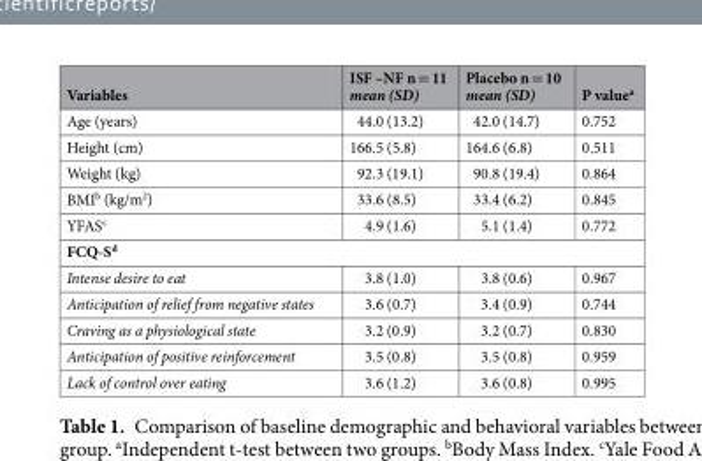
<table><thead><tr><td>Variables</td><td>ISF –NF n = 11 mean (SD)</td><td>Placebo n = 10 mean (SD)</td><td>P value<sup>a</sup></td></tr></thead><tbody><tr><td>Age (years)</td><td>44.0 (13.2)</td><td>42.0 (14.7)</td><td>0.752</td></tr><tr><td>Height (cm)</td><td>166.5 (5.8)</td><td>164.6 (6.8)</td><td>0.511</td></tr><tr><td>Weight (kg)</td><td>92.3 (19.1)</td><td>90.8 (19.4)</td><td>0.864</td></tr><tr><td>BMI<sup>b</sup> (kg/m<sup>2</sup>)</td><td>33.6 (8.5)</td><td>33.4 (6.2)</td><td>0.845</td></tr><tr><td>YFAS<sup>c</sup></td><td>4.9 (1.6)</td><td>5.1 (1.4)</td><td>0.772</td></tr><tr><td colspan="4">FCQ-S<sup>d</sup></td></tr><tr><td>Intense desire to eat</td><td>3.8 (1.0)</td><td>3.8 (0.6)</td><td>0.967</td></tr><tr><td>Anticipation of relief from negative states</td><td>3.6 (0.7)</td><td>3.4 (0.9)</td><td>0.744</td></tr><tr><td>Craving as a physiological state</td><td>3.2 (0.9)</td><td>3.2 (0.7)</td><td>0.830</td></tr><tr><td>Anticipation of positive reinforcement</td><td>3.5 (0.8)</td><td>3.5 (0.8)</td><td>0.959</td></tr><tr><td>Lack of control over eating</td><td>3.6 (1.2)</td><td>3.6 (0.8)</td><td>0.995</td></tr></tbody></table>